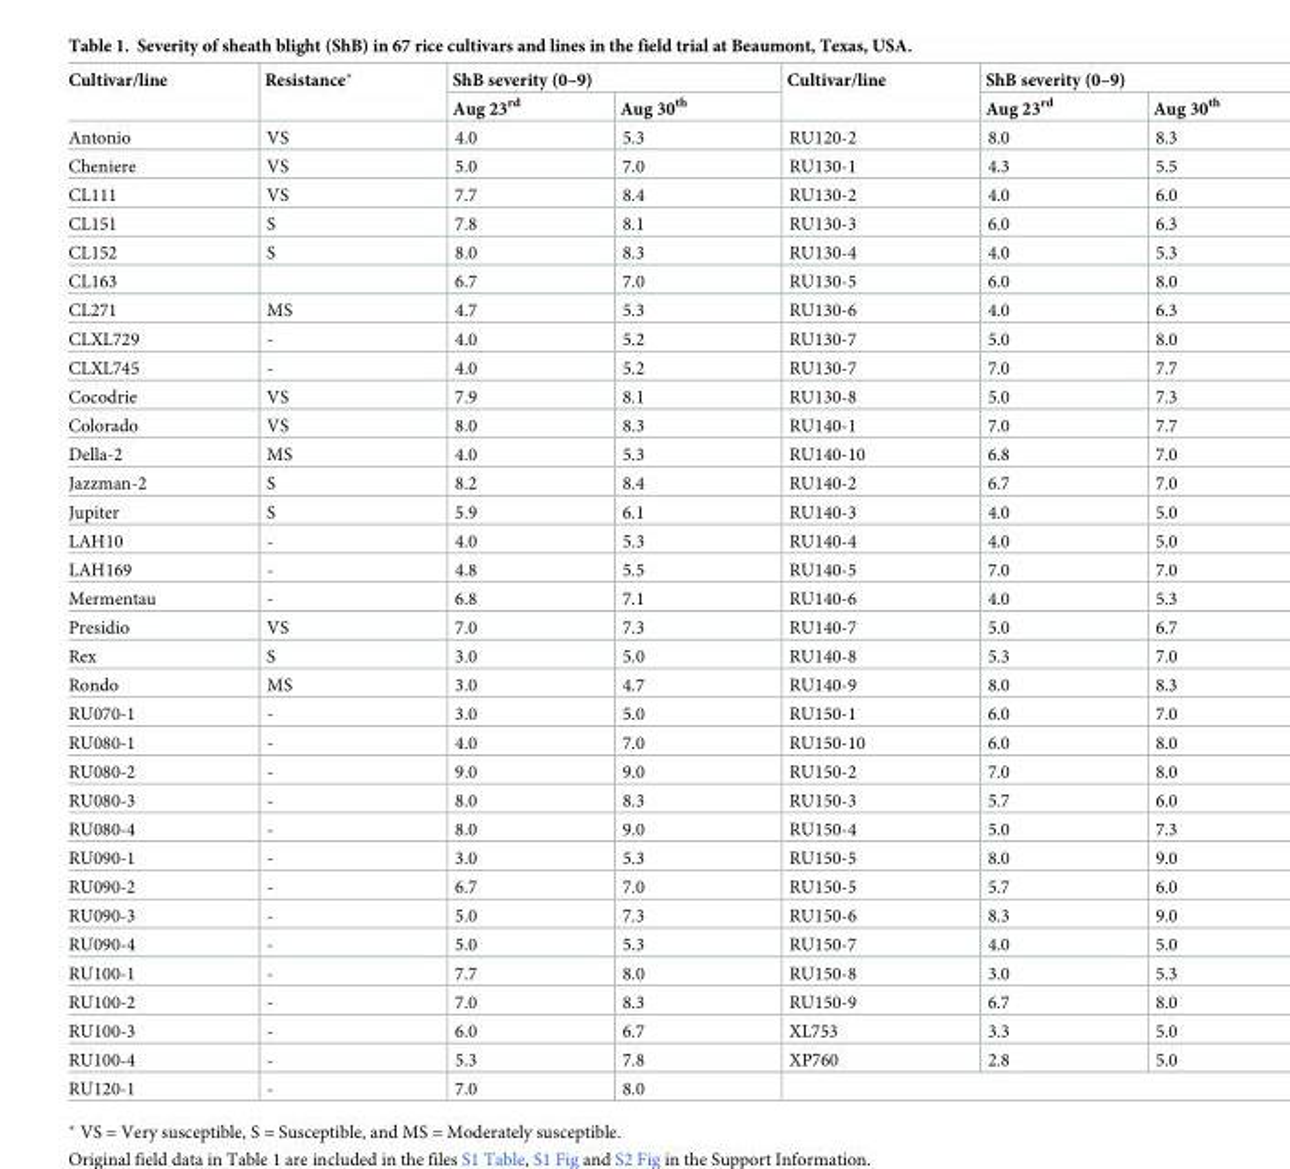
<table><thead><tr><td rowspan="2">Cultivar/line</td><td rowspan="2">Resistance*</td><td colspan="2">ShB severity (0–9)</td><td rowspan="2">Cultivar/line</td><td colspan="2">ShB severity (0–9)</td></tr><tr><td>Aug 23<sup>rd</sup></td><td>Aug 30<sup>th</sup></td><td>Aug 23<sup>rd</sup></td><td>Aug 30<sup>th</sup></td></tr></thead><tbody><tr><td>Antonio</td><td>VS</td><td>4.0</td><td>5.3</td><td>RU120-2</td><td>8.0</td><td>8.3</td></tr><tr><td>Cheniere</td><td>VS</td><td>5.0</td><td>7.0</td><td>RU130-1</td><td>4.3</td><td>5.5</td></tr><tr><td>CL111</td><td>VS</td><td>7.7</td><td>8.4</td><td>RU130-2</td><td>4.0</td><td>6.0</td></tr><tr><td>CL151</td><td>S</td><td>7.8</td><td>8.1</td><td>RU130-3</td><td>6.0</td><td>6.3</td></tr><tr><td>CL152</td><td>S</td><td>8.0</td><td>8.3</td><td>RU130-4</td><td>4.0</td><td>5.3</td></tr><tr><td>CL163</td><td></td><td>6.7</td><td>7.0</td><td>RU130-5</td><td>6.0</td><td>8.0</td></tr><tr><td>CL271</td><td>MS</td><td>4.7</td><td>5.3</td><td>RU130-6</td><td>4.0</td><td>6.3</td></tr><tr><td>CLXL729</td><td>-</td><td>4.0</td><td>5.2</td><td>RU130-7</td><td>5.0</td><td>8.0</td></tr><tr><td>CLXL745</td><td>-</td><td>4.0</td><td>5.2</td><td>RU130-7</td><td>7.0</td><td>7.7</td></tr><tr><td>Cocodrie</td><td>VS</td><td>7.9</td><td>8.1</td><td>RU130-8</td><td>5.0</td><td>7.3</td></tr><tr><td>Colorado</td><td>VS</td><td>8.0</td><td>8.3</td><td>RU140-1</td><td>7.0</td><td>7.7</td></tr><tr><td>Della-2</td><td>MS</td><td>4.0</td><td>5.3</td><td>RU140-10</td><td>6.8</td><td>7.0</td></tr><tr><td>Jazzman-2</td><td>S</td><td>8.2</td><td>8.4</td><td>RU140-2</td><td>6.7</td><td>7.0</td></tr><tr><td>Jupiter</td><td>S</td><td>5.9</td><td>6.1</td><td>RU140-3</td><td>4.0</td><td>5.0</td></tr><tr><td>LAH10</td><td>-</td><td>4.0</td><td>5.3</td><td>RU140-4</td><td>4.0</td><td>5.0</td></tr><tr><td>LAH169</td><td>-</td><td>4.8</td><td>5.5</td><td>RU140-5</td><td>7.0</td><td>7.0</td></tr><tr><td>Mermentau</td><td>-</td><td>6.8</td><td>7.1</td><td>RU140-6</td><td>4.0</td><td>5.3</td></tr><tr><td>Presidio</td><td>VS</td><td>7.0</td><td>7.3</td><td>RU140-7</td><td>5.0</td><td>6.7</td></tr><tr><td>Rex</td><td>S</td><td>3.0</td><td>5.0</td><td>RU140-8</td><td>5.3</td><td>7.0</td></tr><tr><td>Rondo</td><td>MS</td><td>3.0</td><td>4.7</td><td>RU140-9</td><td>8.0</td><td>8.3</td></tr><tr><td>RU070-1</td><td>-</td><td>3.0</td><td>5.0</td><td>RU150-1</td><td>6.0</td><td>7.0</td></tr><tr><td>RU080-1</td><td>-</td><td>4.0</td><td>7.0</td><td>RU150-10</td><td>6.0</td><td>8.0</td></tr><tr><td>RU080-2</td><td>-</td><td>9.0</td><td>9.0</td><td>RU150-2</td><td>7.0</td><td>8.0</td></tr><tr><td>RU080-3</td><td>-</td><td>8.0</td><td>8.3</td><td>RU150-3</td><td>5.7</td><td>6.0</td></tr><tr><td>RU080-4</td><td>-</td><td>8.0</td><td>9.0</td><td>RU150-4</td><td>5.0</td><td>7.3</td></tr><tr><td>RU090-1</td><td>-</td><td>3.0</td><td>5.3</td><td>RU150-5</td><td>8.0</td><td>9.0</td></tr><tr><td>RU090-2</td><td>-</td><td>6.7</td><td>7.0</td><td>RU150-5</td><td>5.7</td><td>6.0</td></tr><tr><td>RU090-3</td><td>-</td><td>5.0</td><td>7.3</td><td>RU150-6</td><td>8.3</td><td>9.0</td></tr><tr><td>RU090-4</td><td>-</td><td>5.0</td><td>5.3</td><td>RU150-7</td><td>4.0</td><td>5.0</td></tr><tr><td>RU100-1</td><td>-</td><td>7.7</td><td>8.0</td><td>RU150-8</td><td>3.0</td><td>5.3</td></tr><tr><td>RU100-2</td><td>-</td><td>7.0</td><td>8.3</td><td>RU150-9</td><td>6.7</td><td>8.0</td></tr><tr><td>RU100-3</td><td>-</td><td>6.0</td><td>6.7</td><td>XL753</td><td>3.3</td><td>5.0</td></tr><tr><td>RU100-4</td><td>-</td><td>5.3</td><td>7.8</td><td>XP760</td><td>2.8</td><td>5.0</td></tr><tr><td>RU120-1</td><td>-</td><td>7.0</td><td>8.0</td><td colspan="3"></td></tr></tbody></table>